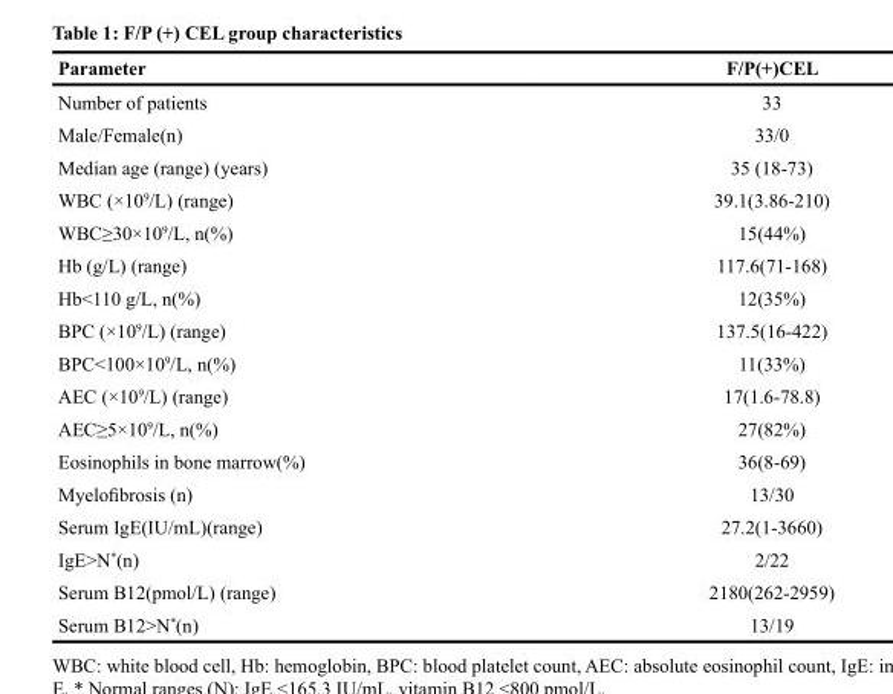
<table><thead><tr><td>Parameter</td><td>F/P(+)CEL</td></tr></thead><tbody><tr><td>Number of patients</td><td>33</td></tr><tr><td>Male/Female(n)</td><td>33/0</td></tr><tr><td>Median age (range) (years)</td><td>35 (18-73)</td></tr><tr><td>WBC (×10<sup>9</sup>/L) (range)</td><td>39.1(3.86-210)</td></tr><tr><td>WBC≥30×10<sup>9</sup>/L, n(%)</td><td>15(44%)</td></tr><tr><td>Hb (g/L) (range)</td><td>117.6(71-168)</td></tr><tr><td>Hb&lt;110 g/L, n(%)</td><td>12(35%)</td></tr><tr><td>BPC (×10<sup>9</sup>/L) (range)</td><td>137.5(16-422)</td></tr><tr><td>BPC&lt;100×10<sup>9</sup>/L, n(%)</td><td>11(33%)</td></tr><tr><td>AEC (×10<sup>9</sup>/L) (range)</td><td>17(1.6-78.8)</td></tr><tr><td>AEC≥5×10<sup>9</sup>/L, n(%)</td><td>27(82%)</td></tr><tr><td>Eosinophils in bone marrow(%)</td><td>36(8-69)</td></tr><tr><td>Myelofibrosis (n)</td><td>13/30</td></tr><tr><td>Serum IgE(IU/mL)(range)</td><td>27.2(1-3660)</td></tr><tr><td>IgE&gt;N*(n)</td><td>2/22</td></tr><tr><td>Serum B12(pmol/L) (range)</td><td>2180(262-2959)</td></tr><tr><td>Serum B12&gt;N*(n)</td><td>13/19</td></tr></tbody></table>